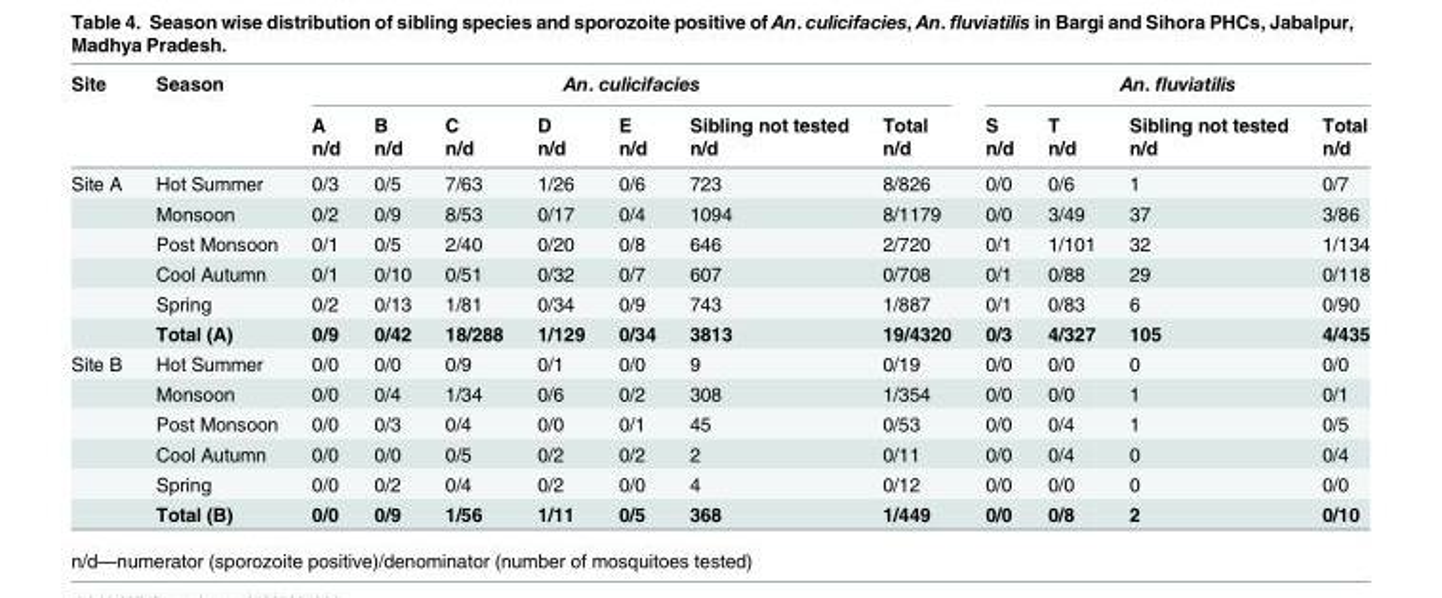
<table><thead><tr><td rowspan="3">Site</td><td rowspan="3">Season</td><td colspan="7">An. culicifacies</td><td colspan="4">An. fluviatilis</td></tr><tr><td rowspan="2">A n/d</td><td rowspan="2">B n/d</td><td rowspan="2">C n/d</td><td rowspan="2">D n/d</td><td rowspan="2">E n/d</td><td rowspan="2">Sibling not tested n/d</td><td rowspan="2">Total n/d</td><td rowspan="2">S n/d</td><td rowspan="2">T n/d</td><td rowspan="2">Sibling not tested n/d</td><td rowspan="2">Total n/d</td></tr><tr></tr></thead><tbody><tr><td rowspan="6">Site A</td><td>Hot Summer</td><td>0/3</td><td>0/5</td><td>7/63</td><td>1/26</td><td>0/6</td><td>723</td><td>8/826</td><td>0/0</td><td>0/6</td><td>1</td><td>0/7</td></tr><tr><td>Monsoon</td><td>0/2</td><td>0/9</td><td>8/53</td><td>0/17</td><td>0/4</td><td>1094</td><td>8/1179</td><td>0/0</td><td>3/49</td><td>37</td><td>3/86</td></tr><tr><td>Post Monsoon</td><td>0/1</td><td>0/5</td><td>2/40</td><td>0/20</td><td>0/8</td><td>646</td><td>2/720</td><td>0/1</td><td>1/101</td><td>32</td><td>1/134</td></tr><tr><td>Cool Autumn</td><td>0/1</td><td>0/10</td><td>0/51</td><td>0/32</td><td>0/7</td><td>607</td><td>0/708</td><td>0/1</td><td>0/88</td><td>29</td><td>0/118</td></tr><tr><td>Spring</td><td>0/2</td><td>0/13</td><td>1/81</td><td>0/34</td><td>0/9</td><td>743</td><td>1/887</td><td>0/1</td><td>0/83</td><td>6</td><td>0/90</td></tr><tr><td>Total (A)</td><td>0/9</td><td>0/42</td><td>18/288</td><td>1/129</td><td>0/34</td><td>3813</td><td>19/4320</td><td>0/3</td><td>4/327</td><td>105</td><td>4/435</td></tr><tr><td rowspan="6">Site B</td><td>Hot Summer</td><td>0/0</td><td>0/0</td><td>0/9</td><td>0/1</td><td>0/0</td><td>9</td><td>0/19</td><td>0/0</td><td>0/0</td><td>0</td><td>0/0</td></tr><tr><td>Monsoon</td><td>0/0</td><td>0/4</td><td>1/34</td><td>0/6</td><td>0/2</td><td>308</td><td>1/354</td><td>0/0</td><td>0/0</td><td>1</td><td>0/1</td></tr><tr><td>Post Monsoon</td><td>0/0</td><td>0/3</td><td>0/4</td><td>0/0</td><td>0/1</td><td>45</td><td>0/53</td><td>0/0</td><td>0/4</td><td>1</td><td>0/5</td></tr><tr><td>Cool Autumn</td><td>0/0</td><td>0/0</td><td>0/5</td><td>0/2</td><td>0/2</td><td>2</td><td>0/11</td><td>0/0</td><td>0/4</td><td>0</td><td>0/4</td></tr><tr><td>Spring</td><td>0/0</td><td>0/2</td><td>0/4</td><td>0/2</td><td>0/0</td><td>4</td><td>0/12</td><td>0/0</td><td>0/0</td><td>0</td><td>0/0</td></tr><tr><td>Total (B)</td><td>0/0</td><td>0/9</td><td>1/56</td><td>1/11</td><td>0/5</td><td>368</td><td>1/449</td><td>0/0</td><td>0/8</td><td>2</td><td>0/10</td></tr></tbody></table>